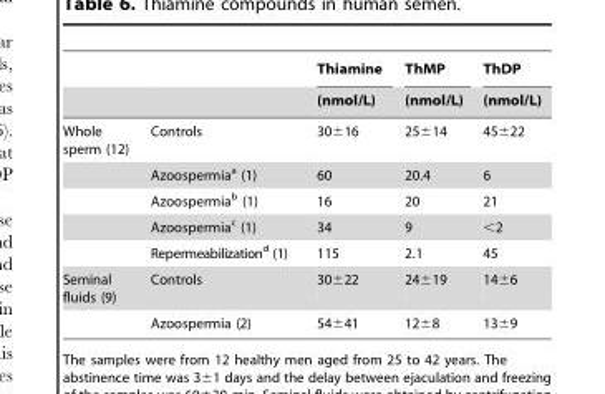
<table><thead><tr><td rowspan="2"></td><td rowspan="2"></td><td rowspan="2">Thiamine (nmol/L)</td><td rowspan="2">ThMP (nmol/L)</td><td rowspan="2">ThDP (nmol/L)</td></tr><tr></tr></thead><tbody><tr><td rowspan="5">Whole sperm (12)</td><td>Controls</td><td>30±16</td><td>25±14</td><td>45±22</td></tr><tr><td>Azoospermia<sup>a</sup> (1)</td><td>60</td><td>20.4</td><td>6</td></tr><tr><td>Azoospermia<sup>b</sup> (1)</td><td>16</td><td>20</td><td>21</td></tr><tr><td>Azoospermia<sup>c</sup> (1)</td><td>34</td><td>9</td><td>&lt;2</td></tr><tr><td>Repermeabilization<sup>d</sup> (1)</td><td>115</td><td>2.1</td><td>45</td></tr><tr><td rowspan="2">Seminal fluids (9)</td><td>Controls</td><td>30±22</td><td>24±19</td><td>14±6</td></tr><tr><td>Azoospermia (2)</td><td>54±41</td><td>12±8</td><td>13±9</td></tr></tbody></table>